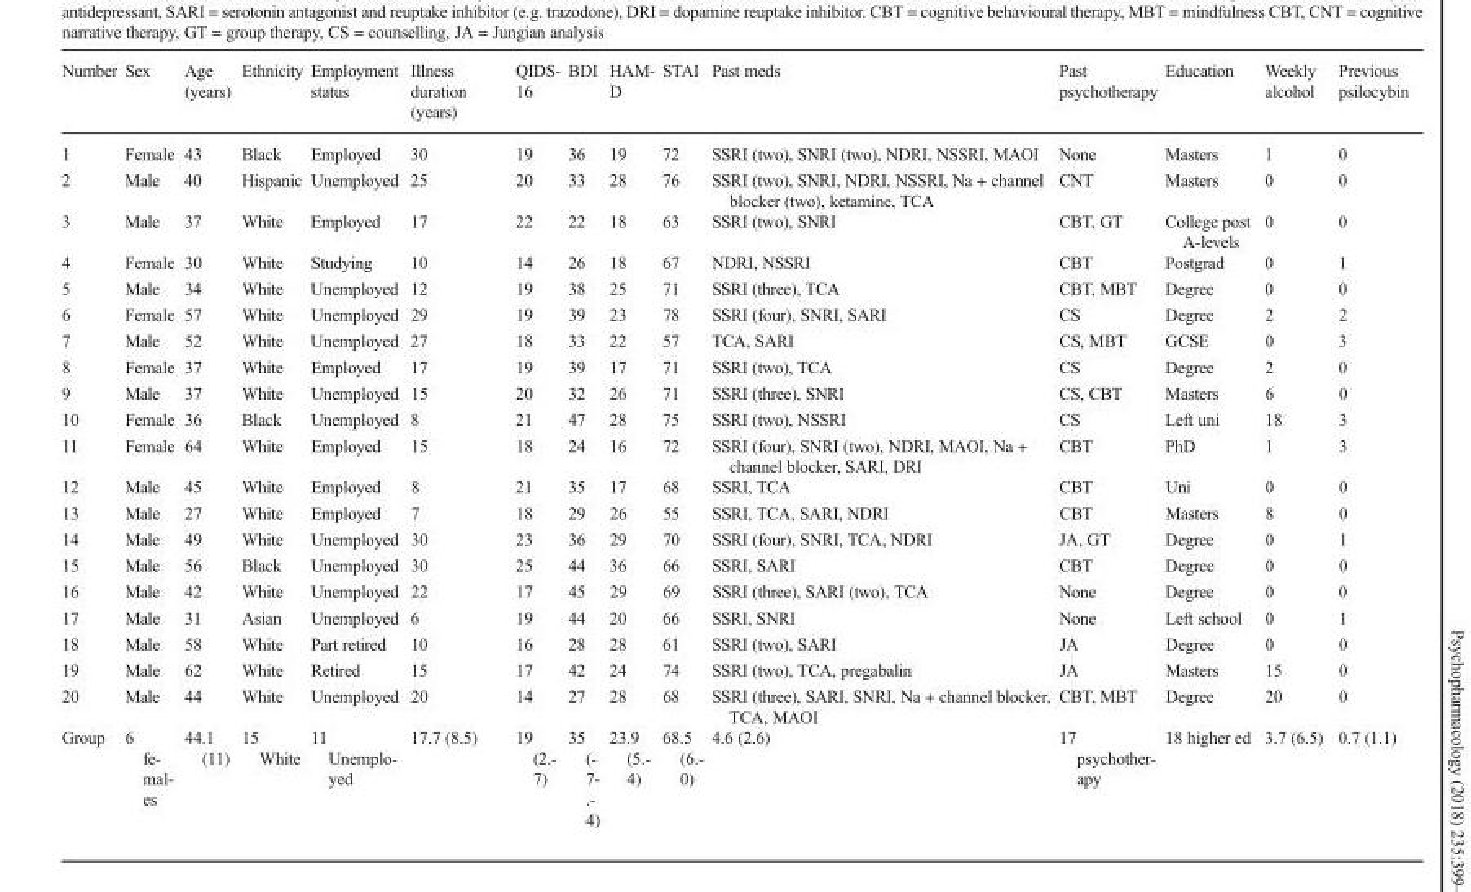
<table><thead><tr><td>Number</td><td>Sex</td><td>Age (years)</td><td>Ethnicity</td><td>Employment status</td><td>Illness duration (years)</td><td>QIDS- 16</td><td>BDI</td><td>HAM- D</td><td>STAI</td><td>Past meds</td><td>Past psychotherapy</td><td>Education</td><td>Weekly alcohol</td><td>Previous psilocybin</td></tr></thead><tbody><tr><td>1</td><td>Female</td><td>43</td><td>Black</td><td>Employed</td><td>30</td><td>19</td><td>36</td><td>19</td><td>72</td><td>SSRI (two), SNRI (two), NDRI, NSSRI, MAOI</td><td>None</td><td>Masters</td><td>1</td><td>0</td></tr><tr><td>2</td><td>Male</td><td>40</td><td>Hispanic</td><td>Unemployed</td><td>25</td><td>20</td><td>33</td><td>28</td><td>76</td><td>SSRI (two), SNRI, NDRI, NSSRI, Na + channel blocker (two), ketamine, TCA</td><td>CNT</td><td>Masters</td><td>0</td><td>0</td></tr><tr><td>3</td><td>Male</td><td>37</td><td>White</td><td>Employed</td><td>17</td><td>22</td><td>22</td><td>18</td><td>63</td><td>SSRI (two), SNRI</td><td>CBT, GT</td><td>College post A-levels</td><td>0</td><td>0</td></tr><tr><td>4</td><td>Female</td><td>30</td><td>White</td><td>Studying</td><td>10</td><td>14</td><td>26</td><td>18</td><td>67</td><td>NDRI, NSSRI</td><td>CBT</td><td>Postgrad</td><td>0</td><td>1</td></tr><tr><td>5</td><td>Male</td><td>34</td><td>White</td><td>Unemployed</td><td>12</td><td>19</td><td>38</td><td>25</td><td>71</td><td>SSRI (three), TCA</td><td>CBT, MBT</td><td>Degree</td><td>0</td><td>0</td></tr><tr><td>6</td><td>Female</td><td>57</td><td>White</td><td>Unemployed</td><td>29</td><td>19</td><td>39</td><td>23</td><td>78</td><td>SSRI (four), SNRI, SARI</td><td>CS</td><td>Degree</td><td>2</td><td>2</td></tr><tr><td>7</td><td>Male</td><td>52</td><td>White</td><td>Unemployed</td><td>27</td><td>18</td><td>33</td><td>22</td><td>57</td><td>TCA, SARI</td><td>CS, MBT</td><td>GCSE</td><td>0</td><td>3</td></tr><tr><td>8</td><td>Female</td><td>37</td><td>White</td><td>Employed</td><td>17</td><td>19</td><td>39</td><td>17</td><td>71</td><td>SSRI (two), TCA</td><td>CS</td><td>Degree</td><td>2</td><td>0</td></tr><tr><td>9</td><td>Male</td><td>37</td><td>White</td><td>Unemployed</td><td>15</td><td>20</td><td>32</td><td>26</td><td>71</td><td>SSRI (three), SNRI</td><td>CS, CBT</td><td>Masters</td><td>6</td><td>0</td></tr><tr><td>10</td><td>Female</td><td>36</td><td>Black</td><td>Unemployed</td><td>8</td><td>21</td><td>47</td><td>28</td><td>75</td><td>SSRI (two), NSSRI</td><td>CS</td><td>Left uni</td><td>18</td><td>3</td></tr><tr><td>11</td><td>Female</td><td>64</td><td>White</td><td>Employed</td><td>15</td><td>18</td><td>24</td><td>16</td><td>72</td><td>SSRI (four), SNRI (two), NDRI, MAOI, Na + channel blocker, SARI, DRI</td><td>CBT</td><td>PhD</td><td>1</td><td>3</td></tr><tr><td>12</td><td>Male</td><td>45</td><td>White</td><td>Employed</td><td>8</td><td>21</td><td>35</td><td>17</td><td>68</td><td>SSRI, TCA</td><td>CBT</td><td>Uni</td><td>0</td><td>0</td></tr><tr><td>13</td><td>Male</td><td>27</td><td>White</td><td>Employed</td><td>7</td><td>18</td><td>29</td><td>26</td><td>55</td><td>SSRI, TCA, SARI, NDRI</td><td>CBT</td><td>Masters</td><td>8</td><td>0</td></tr><tr><td>14</td><td>Male</td><td>49</td><td>White</td><td>Unemployed</td><td>30</td><td>23</td><td>36</td><td>29</td><td>70</td><td>SSRI (four), SNRI, TCA, NDRI</td><td>JA, GT</td><td>Degree</td><td>0</td><td>1</td></tr><tr><td>15</td><td>Male</td><td>56</td><td>Black</td><td>Unemployed</td><td>30</td><td>25</td><td>44</td><td>36</td><td>66</td><td>SSRI, SARI</td><td>CBT</td><td>Degree</td><td>0</td><td>0</td></tr><tr><td>16</td><td>Male</td><td>42</td><td>White</td><td>Unemployed</td><td>22</td><td>17</td><td>45</td><td>29</td><td>69</td><td>SSRI (three), SARI (two), TCA</td><td>None</td><td>Degree</td><td>0</td><td>0</td></tr><tr><td>17</td><td>Male</td><td>31</td><td>Asian</td><td>Unemployed</td><td>6</td><td>19</td><td>44</td><td>20</td><td>66</td><td>SSRI, SNRI</td><td>None</td><td>Left school</td><td>0</td><td>1</td></tr><tr><td>18</td><td>Male</td><td>58</td><td>White</td><td>Part retired</td><td>10</td><td>16</td><td>28</td><td>28</td><td>61</td><td>SSRI (two), SARI</td><td>JA</td><td>Degree</td><td>0</td><td>0</td></tr><tr><td>19</td><td>Male</td><td>62</td><td>White</td><td>Retired</td><td>15</td><td>17</td><td>42</td><td>24</td><td>74</td><td>SSRI (two), TCA, pregabalin</td><td>JA</td><td>Masters</td><td>15</td><td>0</td></tr><tr><td>20</td><td>Male</td><td>44</td><td>White</td><td>Unemployed</td><td>20</td><td>14</td><td>27</td><td>28</td><td>68</td><td>SSRI (three), SARI, SNRI, Na + channel blocker, TCA, MAOI</td><td>CBT, MBT</td><td>Degree</td><td>20</td><td>0</td></tr><tr><td>Group</td><td>6 fe- mal- es</td><td>44.1 (11)</td><td>15 White</td><td>11 Unemplo- yed</td><td>17.7 (8.5)</td><td>19 (2.- 7)</td><td>35 (- 7- .- 4)</td><td>23.9 (5.- 4)</td><td>68.5 (6.- 0)</td><td>4.6 (2.6)</td><td>17 psychother- apy</td><td>18 higher ed</td><td>3.7 (6.5)</td><td>0.7 (1.1)</td></tr></tbody></table>